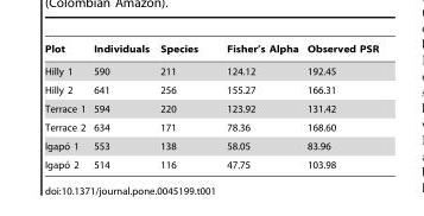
<table><thead><tr><td>Plot</td><td>Individuals</td><td>Species</td><td>Fisher’s Alpha</td><td>Observed PSR</td></tr></thead><tbody><tr><td>Hilly 1</td><td>590</td><td>211</td><td>124.12</td><td>192.45</td></tr><tr><td>Hilly 2</td><td>641</td><td>256</td><td>155.27</td><td>166.31</td></tr><tr><td>Terrace 1</td><td>594</td><td>220</td><td>123.92</td><td>131.42</td></tr><tr><td>Terrace 2</td><td>634</td><td>171</td><td>78.36</td><td>168.60</td></tr><tr><td>Igapo´ 1</td><td>553</td><td>138</td><td>58.05</td><td>83.96</td></tr><tr><td>Igapo´ 2</td><td>514</td><td>116</td><td>47.75</td><td>103.98</td></tr></tbody></table>